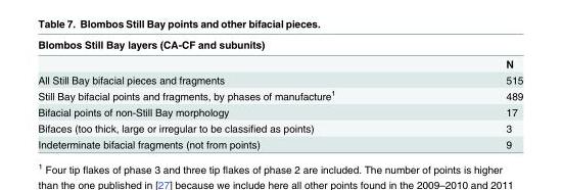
<table><thead><tr><td>Blombos Still Bay layers (CA-CF and subunits)</td><td></td></tr></thead><tbody><tr><td></td><td>N</td></tr><tr><td>All Still Bay bifacial pieces and fragments</td><td>515</td></tr><tr><td>Still Bay bifacial points and fragments, by phases of manufacture<sup>1</sup></td><td>489</td></tr><tr><td>Bifacial points of non-Still Bay morphology</td><td>17</td></tr><tr><td>Bifaces (too thick, large or irregular to be classified as points)</td><td>3</td></tr><tr><td>Indeterminate bifacial fragments (not from points)</td><td>9</td></tr></tbody></table>